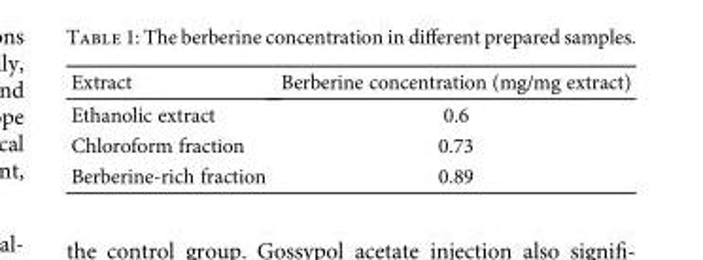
<table><thead><tr><td>Extract</td><td>Berberine concentration (mg/mg extract)</td></tr></thead><tbody><tr><td>Ethanolic extract</td><td>0.6</td></tr><tr><td>Chloroform fraction</td><td>0.73</td></tr><tr><td>Berberine-rich fraction</td><td>0.89</td></tr></tbody></table>